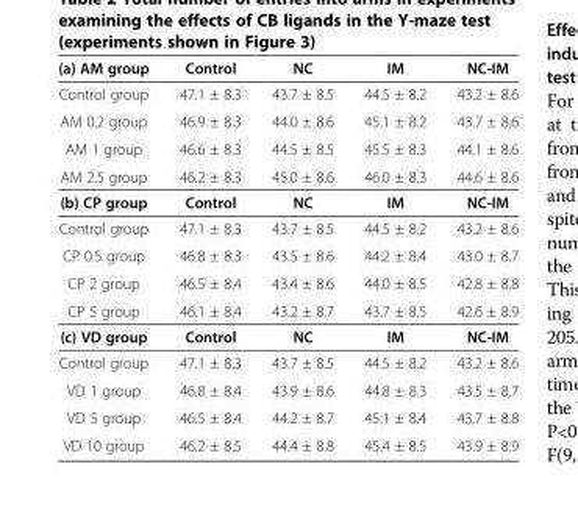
<table><thead><tr><td>(a) AM group</td><td>Control</td><td>NC</td><td>IM</td><td>NC-IM</td></tr></thead><tbody><tr><td>Control group</td><td>47.1 ± 8.3</td><td>43.7 ± 8.5</td><td>44.5 ± 8.2</td><td>43.2 ± 8.6</td></tr><tr><td>AM 0.2 group</td><td>46.9 ± 8.3</td><td>44.0 ± 8.6</td><td>45.1 ± 8.2</td><td>43.7 ± 8.6</td></tr><tr><td>AM 1 group</td><td>46.6 ± 8.3</td><td>44.5 ± 8.5</td><td>45.5 ± 8.3</td><td>44.1 ± 8.6</td></tr><tr><td>AM 2.5 group</td><td>46.2 ± 8.3</td><td>45.0 ± 8.6</td><td>46.0 ± 8.3</td><td>44.6 ± 8.6</td></tr><tr><td>(b) CP group</td><td>Control</td><td>NC</td><td>IM</td><td>NC-IM</td></tr><tr><td>Control group</td><td>47.1 ± 8.3</td><td>43.7 ± 8.5</td><td>44.5 ± 8.2</td><td>43.2 ± 8.6</td></tr><tr><td>CP 0.5 group</td><td>46.8 ± 8.3</td><td>43.5 ± 8.6</td><td>44.2 ± 8.4</td><td>43.0 ± 8.7</td></tr><tr><td>CP 2 group</td><td>46.5 ± 8.4</td><td>43.4 ± 8.6</td><td>44.0 ± 8.5</td><td>42.8 ± 8.8</td></tr><tr><td>CP 5 group</td><td>46.1 ± 8.4</td><td>43.2 ± 8.7</td><td>43.7 ± 8.5</td><td>42.6 ± 8.9</td></tr><tr><td>(c) VD group</td><td>Control</td><td>NC</td><td>IM</td><td>NC-IM</td></tr><tr><td>Control group</td><td>47.1 ± 8.3</td><td>43.7 ± 8.5</td><td>44.5 ± 8.2</td><td>43.2 ± 8.6</td></tr><tr><td>VD 1 group</td><td>46.8 ± 8.4</td><td>43.9 ± 8.6</td><td>44.8 ± 8.3</td><td>43.5 ± 8.7</td></tr><tr><td>VD 5 group</td><td>46.5 ± 8.4</td><td>44.2 ± 8.7</td><td>45.1 ± 8.4</td><td>43.7 ± 8.8</td></tr><tr><td>VD 10 group</td><td>46.2 ± 8.5</td><td>44.4 ± 8.8</td><td>45.4 ± 8.5</td><td>43.9 ± 8.9</td></tr></tbody></table>